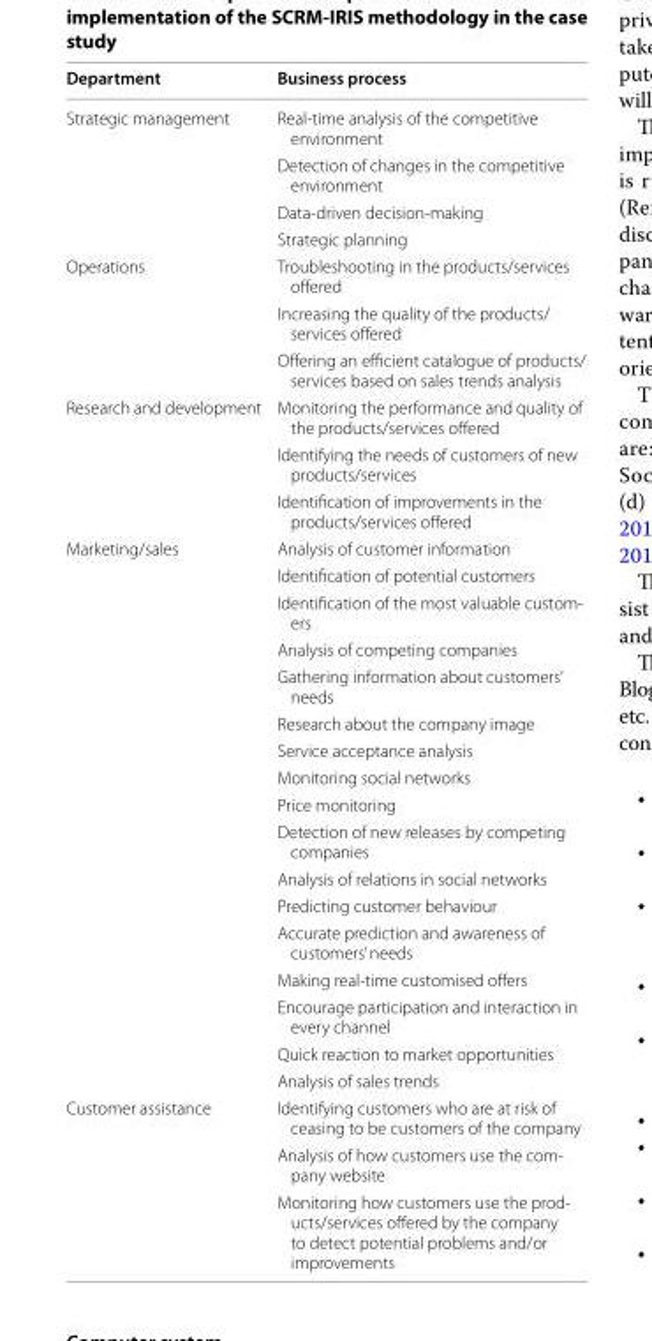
<table><thead><tr><td>Department</td><td>Business process</td></tr></thead><tbody><tr><td rowspan="4">Strategic management</td><td>Real‑time analysis of the competitive environment</td></tr><tr><td>Detection of changes in the competitive environment</td></tr><tr><td>Data‑driven decision‑making</td></tr><tr><td>Strategic planning</td></tr><tr><td rowspan="3">Operations</td><td>Troubleshooting in the products/services offered</td></tr><tr><td>Increasing the quality of the products/ services offered</td></tr><tr><td>Offering an efficient catalogue of products/ services based on sales trends analysis</td></tr><tr><td rowspan="3">Research and development</td><td>Monitoring the performance and quality of the products/services offered</td></tr><tr><td>Identifying the needs of customers of new products/services</td></tr><tr><td>Identification of improvements in the products/services offered</td></tr><tr><td rowspan="17">Marketing/sales</td><td>Analysis of customer information</td></tr><tr><td>Identification of potential customers</td></tr><tr><td>Identification of the most valuable custom‑ ers</td></tr><tr><td>Analysis of competing companies</td></tr><tr><td>Gathering information about customers’ needs</td></tr><tr><td>Research about the company image</td></tr><tr><td>Service acceptance analysis</td></tr><tr><td>Monitoring social networks</td></tr><tr><td>Price monitoring</td></tr><tr><td>Detection of new releases by competing companies</td></tr><tr><td>Analysis of relations in social networks</td></tr><tr><td>Predicting customer behaviour</td></tr><tr><td>Accurate prediction and awareness of customers’ needs</td></tr><tr><td>Making real‑time customised offers</td></tr><tr><td>Encourage participation and interaction in every channel</td></tr><tr><td>Quick reaction to market opportunities</td></tr><tr><td>Analysis of sales trends</td></tr><tr><td rowspan="3">Customer assistance</td><td>Identifying customers who are at risk of ceasing to be customers of the company</td></tr><tr><td>Analysis of how customers use the com‑ pany website</td></tr><tr><td>Monitoring how customers use the prod‑ ucts/services offered by the company to detect potential problems and/or improvements</td></tr></tbody></table>